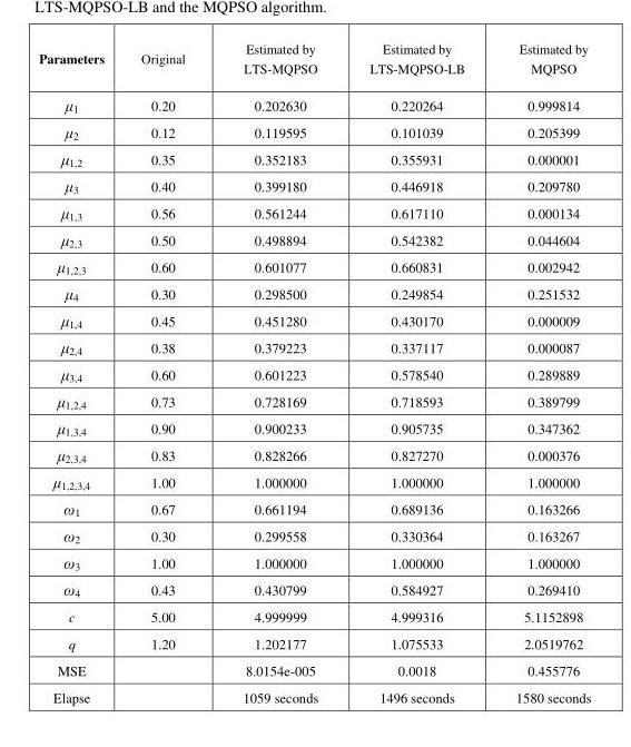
<table><thead><tr><td>Parameters</td><td>Original</td><td>Estimated by LTS-MQPSO</td><td>Estimated by LTS-MQPSO-LB</td><td>Estimated by MQPSO</td></tr></thead><tbody><tr><td>μ<sub>1</sub></td><td>0.20</td><td>0.202630</td><td>0.220264</td><td>0.999814</td></tr><tr><td>μ<sub>2</sub></td><td>0.12</td><td>0.119595</td><td>0.101039</td><td>0.205399</td></tr><tr><td>μ<sub>1,2</sub></td><td>0.35</td><td>0.352183</td><td>0.355931</td><td>0.000001</td></tr><tr><td>μ<sub>3</sub></td><td>0.40</td><td>0.399180</td><td>0.446918</td><td>0.209780</td></tr><tr><td>μ<sub>1,3</sub></td><td>0.56</td><td>0.561244</td><td>0.617110</td><td>0.000134</td></tr><tr><td>μ<sub>2,3</sub></td><td>0.50</td><td>0.498894</td><td>0.542382</td><td>0.044604</td></tr><tr><td>μ<sub>1,2,3</sub></td><td>0.60</td><td>0.601077</td><td>0.660831</td><td>0.002942</td></tr><tr><td>μ<sub>4</sub></td><td>0.30</td><td>0.298500</td><td>0.249854</td><td>0.251532</td></tr><tr><td>μ<sub>1,4</sub></td><td>0.45</td><td>0.451280</td><td>0.430170</td><td>0.000009</td></tr><tr><td>μ<sub>2,4</sub></td><td>0.38</td><td>0.379223</td><td>0.337117</td><td>0.000087</td></tr><tr><td>μ<sub>3,4</sub></td><td>0.60</td><td>0.601223</td><td>0.578540</td><td>0.289889</td></tr><tr><td>μ<sub>1,2,4</sub></td><td>0.73</td><td>0.728169</td><td>0.718593</td><td>0.389799</td></tr><tr><td>μ<sub>1,3,4</sub></td><td>0.90</td><td>0.900233</td><td>0.905735</td><td>0.347362</td></tr><tr><td>μ<sub>2,3,4</sub></td><td>0.83</td><td>0.828266</td><td>0.827270</td><td>0.000376</td></tr><tr><td>μ<sub>1,2,3,4</sub></td><td>1.00</td><td>1.000000</td><td>1.000000</td><td>1.000000</td></tr><tr><td>ω<sub>1</sub></td><td>0.67</td><td>0.661194</td><td>0.689136</td><td>0.163266</td></tr><tr><td>ω<sub>2</sub></td><td>0.30</td><td>0.299558</td><td>0.330364</td><td>0.163267</td></tr><tr><td>ω<sub>3</sub></td><td>1.00</td><td>1.000000</td><td>1.000000</td><td>1.000000</td></tr><tr><td>ω<sub>4</sub></td><td>0.43</td><td>0.430799</td><td>0.584927</td><td>0.269410</td></tr><tr><td>c</td><td>5.00</td><td>4.999999</td><td>4.999316</td><td>5.1152898</td></tr><tr><td>q</td><td>1.20</td><td>1.202177</td><td>1.075533</td><td>2.0519762</td></tr><tr><td>MSE</td><td></td><td>8.0154e-005</td><td>0.0018</td><td>0.455776</td></tr><tr><td>Elapse</td><td></td><td>1059 seconds</td><td>1496 seconds</td><td>1580 seconds</td></tr></tbody></table>